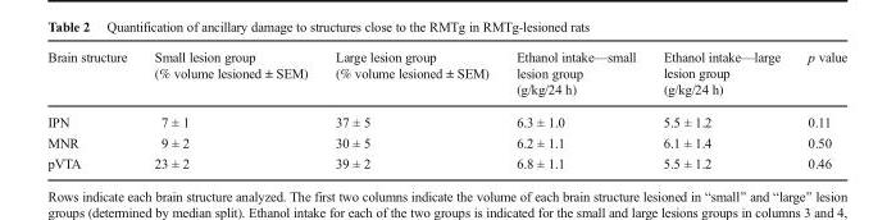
<table><thead><tr><td>Brain structure</td><td>Small lesion group (% volume lesioned ± SEM)</td><td>Large lesion group (% volume lesioned ± SEM)</td><td>Ethanol intake—small lesion group (g/kg/24 h)</td><td>Ethanol intake—large lesion group (g/kg/24 h)</td><td>p value</td></tr></thead><tbody><tr><td>IPN</td><td>7 ± 1</td><td>37 ± 5</td><td>6.3 ± 1.0</td><td>5.5 ± 1.2</td><td>0.11</td></tr><tr><td>MNR</td><td>9 ± 2</td><td>30 ± 5</td><td>6.2 ± 1.1</td><td>6.1 ± 1.4</td><td>0.50</td></tr><tr><td>pVTA</td><td>23 ± 2</td><td>39 ± 2</td><td>6.8 ± 1.1</td><td>5.5 ± 1.2</td><td>0.46</td></tr></tbody></table>